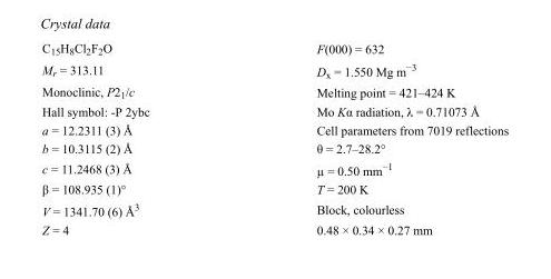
<table><tbody><tr><td>C<sub>15</sub>H<sub>8</sub>Cl<sub>2</sub>F<sub>2</sub>O</td><td>F(000) = 632</td></tr><tr><td>M<sub>r</sub> = 313.11</td><td>D<sub>x</sub> = 1.550 Mg m<sup>−3</sup></td></tr><tr><td>Monoclinic, P2<sub>1</sub>/c</td><td>Melting point = 421–424 K</td></tr><tr><td>Hall symbol: -P 2ybc</td><td>Mo Kα radiation, λ = 0.71073 Å</td></tr><tr><td>a = 12.2311 (3) Å</td><td>Cell parameters from 7019 reflections</td></tr><tr><td>b = 10.3115 (2) Å</td><td>θ = 2.7–28.2°</td></tr><tr><td>c = 11.2468 (3) Å</td><td>µ = 0.50 mm<sup>−1</sup></td></tr><tr><td>β = 108.935 (1)°</td><td>T = 200 K</td></tr><tr><td>V = 1341.70 (6) Å<sup>3</sup></td><td>Block, colourless</td></tr><tr><td>Z = 4</td><td>0.48 × 0.34 × 0.27 mm</td></tr></tbody></table>